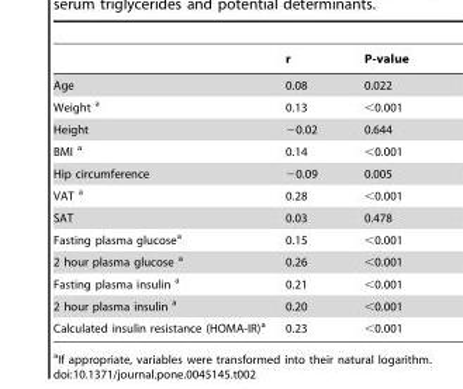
<table><thead><tr><td></td><td>r</td><td>P-value</td></tr></thead><tbody><tr><td>Age</td><td>0.08</td><td>0.022</td></tr><tr><td>Weight a</td><td>0.13</td><td>&lt;0.001</td></tr><tr><td>Height</td><td>−0.02</td><td>0.644</td></tr><tr><td>BMI a</td><td>0.14</td><td>&lt;0.001</td></tr><tr><td>Hip circumference</td><td>−0.09</td><td>0.005</td></tr><tr><td>VAT a</td><td>0.28</td><td>&lt;0.001</td></tr><tr><td>SAT</td><td>0.03</td><td>0.478</td></tr><tr><td>Fasting plasma glucose<sup>a</sup></td><td>0.15</td><td>&lt;0.001</td></tr><tr><td>2 hour plasma glucose a</td><td>0.26</td><td>&lt;0.001</td></tr><tr><td>Fasting plasma insulin a</td><td>0.21</td><td>&lt;0.001</td></tr><tr><td>2 hour plasma insulin a</td><td>0.20</td><td>&lt;0.001</td></tr><tr><td>Calculated insulin resistance (HOMA-IR)<sup>a</sup></td><td>0.23</td><td>&lt;0.001</td></tr></tbody></table>